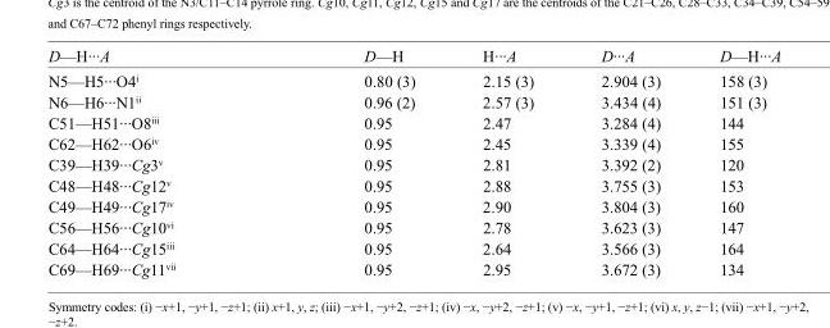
<table><tbody><tr><td>D—H···A</td><td>D—H</td><td>H···A</td><td>D···A</td><td>D—H···A</td></tr><tr><td>N5—H5···O4<sup>i</sup></td><td>0.80 (3)</td><td>2.15 (3)</td><td>2.904 (3)</td><td>158 (3)</td></tr><tr><td>N6—H6···N1<sup>ii</sup></td><td>0.96 (2)</td><td>2.57 (3)</td><td>3.434 (4)</td><td>151 (3)</td></tr><tr><td>C51—H51···O8<sup>iii</sup></td><td>0.95</td><td>2.47</td><td>3.284 (4)</td><td>144</td></tr><tr><td>C62—H62···O6<sup>iv</sup></td><td>0.95</td><td>2.45</td><td>3.339 (4)</td><td>155</td></tr><tr><td>C39—H39···Cg3<sup>v</sup></td><td>0.95</td><td>2.81</td><td>3.392 (2)</td><td>120</td></tr><tr><td>C48—H48···Cg12<sup>v</sup></td><td>0.95</td><td>2.88</td><td>3.755 (3)</td><td>153</td></tr><tr><td>C49—H49···Cg17<sup>iv</sup></td><td>0.95</td><td>2.90</td><td>3.804 (3)</td><td>160</td></tr><tr><td>C56—H56···Cg10<sup>vi</sup></td><td>0.95</td><td>2.78</td><td>3.623 (3)</td><td>147</td></tr><tr><td>C64—H64···Cg15<sup>iii</sup></td><td>0.95</td><td>2.64</td><td>3.566 (3)</td><td>164</td></tr><tr><td>C69—H69···Cg11<sup>vii</sup></td><td>0.95</td><td>2.95</td><td>3.672 (3)</td><td>134</td></tr></tbody></table>